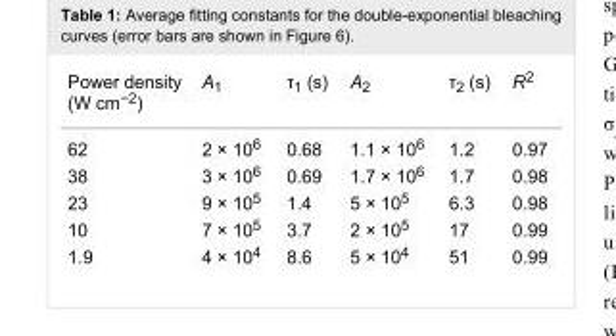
<table><tbody><tr><td>Power density (W cm<sup>−2</sup>)</td><td>A<sub>1</sub></td><td>τ<sub>1</sub> (s)</td><td>A<sub>2</sub></td><td>τ<sub>2</sub> (s)</td><td>R<sup>2</sup></td></tr><tr><td>62</td><td>2 × 10<sup>6</sup></td><td>0.68</td><td>1.1 × 10<sup>6</sup></td><td>1.2</td><td>0.97</td></tr><tr><td>38</td><td>3 × 10<sup>6</sup></td><td>0.69</td><td>1.7 × 10<sup>6</sup></td><td>1.7</td><td>0.98</td></tr><tr><td>23</td><td>9 × 10<sup>5</sup></td><td>1.4</td><td>5 × 10<sup>5</sup></td><td>6.3</td><td>0.98</td></tr><tr><td>10</td><td>7 × 10<sup>5</sup></td><td>3.7</td><td>2 × 10<sup>5</sup></td><td>17</td><td>0.99</td></tr><tr><td>1.9</td><td>4 × 10<sup>4</sup></td><td>8.6</td><td>5 × 10<sup>4</sup></td><td>51</td><td>0.99</td></tr></tbody></table>